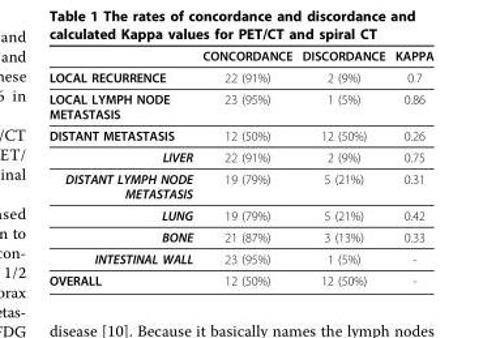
<table><thead><tr><td></td><td>CONCORDANCE</td><td>DISCORDANCE</td><td>KAPPA</td></tr></thead><tbody><tr><td>LOCAL RECURRENCE</td><td>22 (91%)</td><td>2 (9%)</td><td>0.7</td></tr><tr><td>LOCAL LYMPH NODE METASTASIS</td><td>23 (95%)</td><td>1 (5%)</td><td>0.86</td></tr><tr><td>DISTANT METASTASIS</td><td>12 (50%)</td><td>12 (50%)</td><td>0.26</td></tr><tr><td>LIVER</td><td>22 (91%)</td><td>2 (9%)</td><td>0.75</td></tr><tr><td>DISTANT LYMPH NODE METASTASIS</td><td>19 (79%)</td><td>5 (21%)</td><td>0.31</td></tr><tr><td>LUNG</td><td>19 (79%)</td><td>5 (21%)</td><td>0.42</td></tr><tr><td>BONE</td><td>21 (87%)</td><td>3 (13%)</td><td>0.33</td></tr><tr><td>INTESTINAL WALL</td><td>23 (95%)</td><td>1 (5%)</td><td>-</td></tr><tr><td>OVERALL</td><td>12 (50%)</td><td>12 (50%)</td><td>-</td></tr></tbody></table>